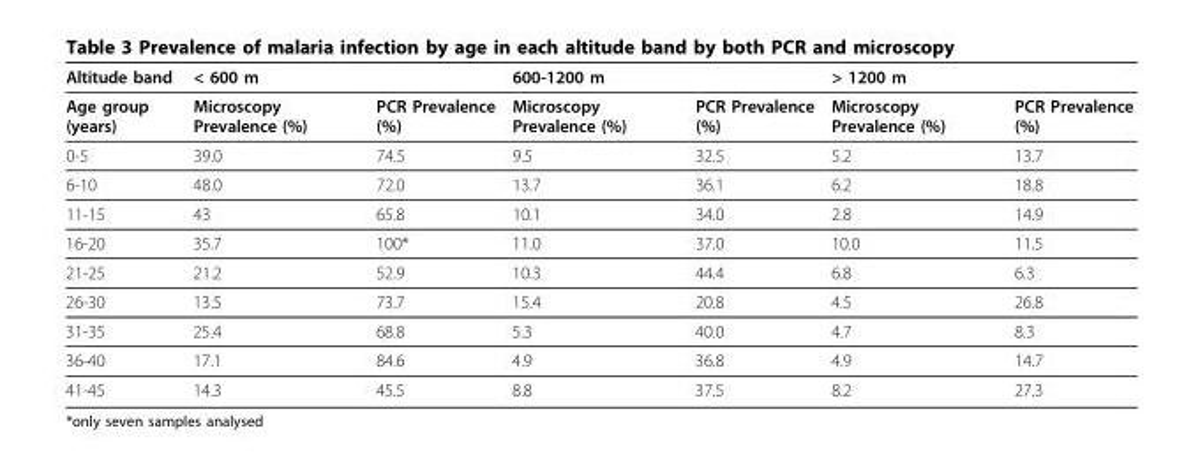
<table><thead><tr><td rowspan="2">Altitude band Age group (years)</td><td colspan="2">&lt; 600 m</td><td colspan="2">600-1200 m</td><td colspan="2">&gt; 1200 m</td></tr><tr><td>Microscopy Prevalence (%)</td><td>PCR Prevalence (%)</td><td>Microscopy Prevalence (%)</td><td>PCR Prevalence (%)</td><td>Microscopy Prevalence (%)</td><td>PCR Prevalence (%)</td></tr></thead><tbody><tr><td>0-5</td><td>39.0</td><td>74.5</td><td>9.5</td><td>32.5</td><td>5.2</td><td>13.7</td></tr><tr><td>6-10</td><td>48.0</td><td>72.0</td><td>13.7</td><td>36.1</td><td>6.2</td><td>18.8</td></tr><tr><td>11-15</td><td>43</td><td>65.8</td><td>10.1</td><td>34.0</td><td>2.8</td><td>14.9</td></tr><tr><td>16-20</td><td>35.7</td><td>100*</td><td>11.0</td><td>37.0</td><td>10.0</td><td>11.5</td></tr><tr><td>21-25</td><td>21.2</td><td>52.9</td><td>10.3</td><td>44.4</td><td>6.8</td><td>6.3</td></tr><tr><td>26-30</td><td>13.5</td><td>73.7</td><td>15.4</td><td>20.8</td><td>4.5</td><td>26.8</td></tr><tr><td>31-35</td><td>25.4</td><td>68.8</td><td>5.3</td><td>40.0</td><td>4.7</td><td>8.3</td></tr><tr><td>36-40</td><td>17.1</td><td>84.6</td><td>4.9</td><td>36.8</td><td>4.9</td><td>14.7</td></tr><tr><td>41-45</td><td>14.3</td><td>45.5</td><td>8.8</td><td>37.5</td><td>8.2</td><td>27.3</td></tr></tbody></table>